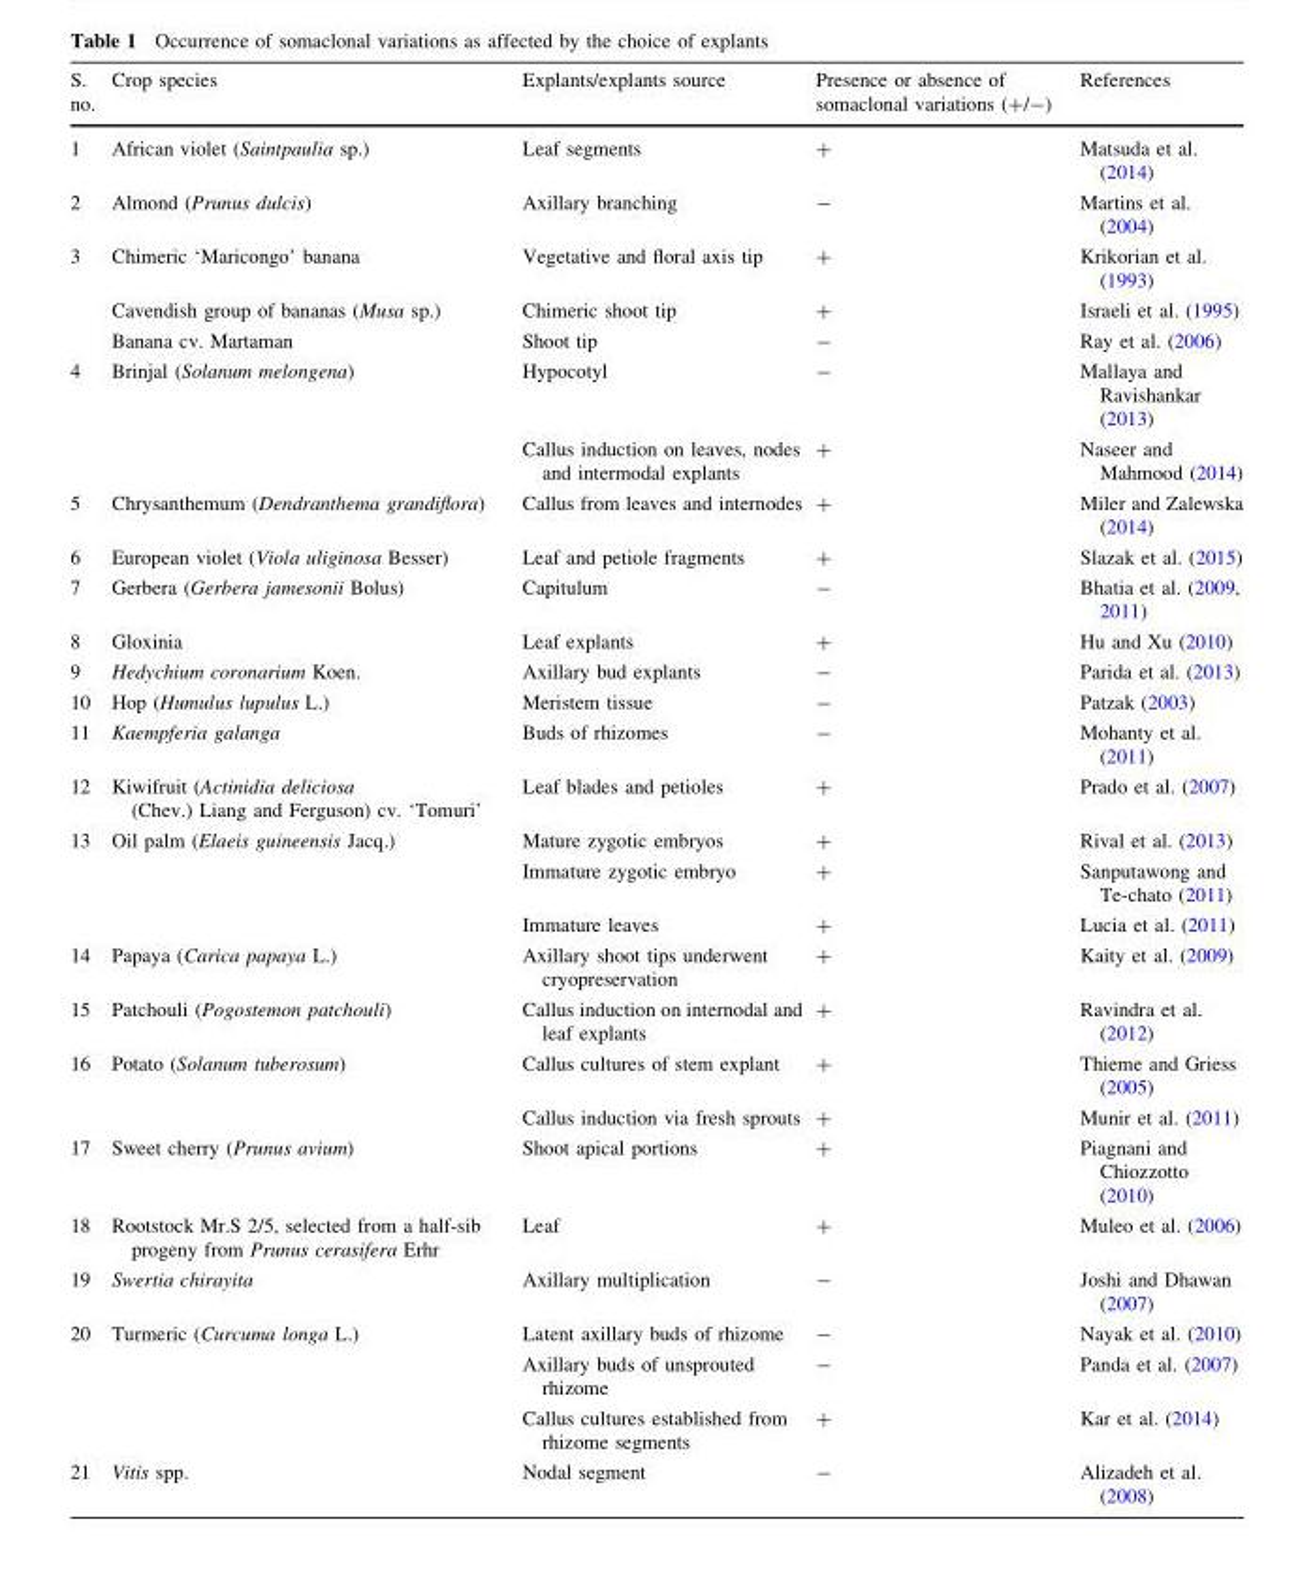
<table><thead><tr><td>S. no.</td><td>Crop species</td><td>Explants/explants source</td><td>Presence or absence of somaclonal variations (+/-)</td><td>References</td></tr></thead><tbody><tr><td>1</td><td>African violet (Saintpaulia sp.)</td><td>Leaf segments</td><td>+</td><td>Matsuda et al. (2014)</td></tr><tr><td>2</td><td>Almond (Prunus dulcis)</td><td>Axillary branching</td><td>-</td><td>Martins et al. (2004)</td></tr><tr><td rowspan="3">3</td><td>Chimeric ‘Maricongo’ banana</td><td>Vegetative and floral axis tip</td><td>+</td><td>Krikorian et al. (1993)</td></tr><tr><td>Cavendish group of bananas (Musa sp.)</td><td>Chimeric shoot tip</td><td>+</td><td>Israeli et al. (1995)</td></tr><tr><td>Banana cv. Martaman</td><td>Shoot tip</td><td>-</td><td>Ray et al. (2006)</td></tr><tr><td rowspan="2">4</td><td rowspan="2">Brinjal (Solanum melongena)</td><td>Hypocotyl</td><td>-</td><td>Mallaya and Ravishankar (2013)</td></tr><tr><td>Callus induction on leaves, nodes and intermodal explants</td><td>+</td><td>Naseer and Mahmood (2014)</td></tr><tr><td>5</td><td>Chrysanthemum (Dendranthema grandiflora)</td><td>Callus from leaves and internodes</td><td>+</td><td>Miler and Zalewska (2014)</td></tr><tr><td>6</td><td>European violet (Viola uliginosa Besser)</td><td>Leaf and petiole fragments</td><td>+</td><td>Slazak et al. (2015)</td></tr><tr><td>7</td><td>Gerbera (Gerbera jamesonii Bolus)</td><td>Capitulum</td><td>-</td><td>Bhatia et al. (2009, 2011)</td></tr><tr><td>8</td><td>Gloxinia</td><td>Leaf explants</td><td>+</td><td>Hu and Xu (2010)</td></tr><tr><td>9</td><td>Hedychium coronarium Koen.</td><td>Axillary bud explants</td><td>-</td><td>Parida et al. (2013)</td></tr><tr><td>10</td><td>Hop (Humulus lupulus L.)</td><td>Meristem tissue</td><td>-</td><td>Patzak (2003)</td></tr><tr><td>11</td><td>Kaempferia galanga</td><td>Buds of rhizomes</td><td>-</td><td>Mohanty et al. (2011)</td></tr><tr><td>12</td><td>Kiwifruit (Actinidia deliciosa (Chev.) Liang and Ferguson) cv. ‘Tomuri’</td><td>Leaf blades and petioles</td><td>+</td><td>Prado et al. (2007)</td></tr><tr><td rowspan="3">13</td><td rowspan="3">Oil palm (Elaeis guineensis Jacq.)</td><td>Mature zygotic embryos</td><td>+</td><td>Rival et al. (2013)</td></tr><tr><td>Immature zygotic embryo</td><td>+</td><td>Sanputawong and Te-chato (2011)</td></tr><tr><td>Immature leaves</td><td>+</td><td>Lucia et al. (2011)</td></tr><tr><td>14</td><td>Papaya (Carica papaya L.)</td><td>Axillary shoot tips underwent cryopreservation</td><td>+</td><td>Kaity et al. (2009)</td></tr><tr><td>15</td><td>Patchouli (Pogostemon patchouli)</td><td>Callus induction on internodal and leaf explants</td><td>+</td><td>Ravindra et al. (2012)</td></tr><tr><td rowspan="2">16</td><td rowspan="2">Potato (Solanum tuberosum)</td><td>Callus cultures of stem explant</td><td>+</td><td>Thieme and Griess (2005)</td></tr><tr><td>Callus induction via fresh sprouts</td><td>+</td><td>Munir et al. (2011)</td></tr><tr><td>17</td><td>Sweet cherry (Prunus avium)</td><td>Shoot apical portions</td><td>+</td><td>Piagnani and Chiozzotto (2010)</td></tr><tr><td>18</td><td>Rootstock Mr.S 2/5, selected from a half-sib progeny from Prunus cerasifera Erhr</td><td>Leaf</td><td>+</td><td>Muleo et al. (2006)</td></tr><tr><td>19</td><td>Swertia chirayita</td><td>Axillary multiplication</td><td>-</td><td>Joshi and Dhawan (2007)</td></tr><tr><td rowspan="3">20</td><td rowspan="3">Turmeric (Curcuma longa L.)</td><td>Latent axillary buds of rhizome</td><td>-</td><td>Nayak et al. (2010)</td></tr><tr><td>Axillary buds of unsprouted rhizome</td><td>-</td><td>Panda et al. (2007)</td></tr><tr><td>Callus cultures established from rhizome segments</td><td>+</td><td>Kar et al. (2014)</td></tr><tr><td>21</td><td>Vitis spp.</td><td>Nodal segment</td><td>-</td><td>Alizadeh et al. (2008)</td></tr></tbody></table>